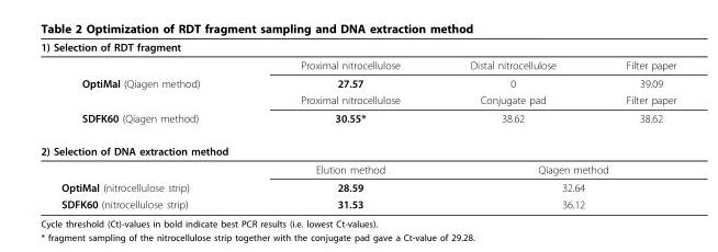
<table><thead><tr><td colspan="4">1) Selection of RDT fragment</td></tr><tr><td></td><td>Proximal nitrocellulose</td><td>Distal nitrocellulose</td><td>Filter paper</td></tr></thead><tbody><tr><td rowspan="2">OptiMal (Qiagen method)</td><td>27.57</td><td>0</td><td>39.09</td></tr><tr><td>Proximal nitrocellulose</td><td>Conjugate pad</td><td>Filter paper</td></tr><tr><td>SDFK60 (Qiagen method)</td><td>30.55*</td><td>38.62</td><td>38.62</td></tr><tr><td colspan="4">2) Selection of DNA extraction method</td></tr><tr><td></td><td>Elution method</td><td colspan="2">Qiagen method</td></tr><tr><td>OptiMal (nitrocellulose strip)</td><td>28.59</td><td colspan="2">32.64</td></tr><tr><td>SDFK60 (nitrocellulose strip)</td><td>31.53</td><td colspan="2">36.12</td></tr></tbody></table>